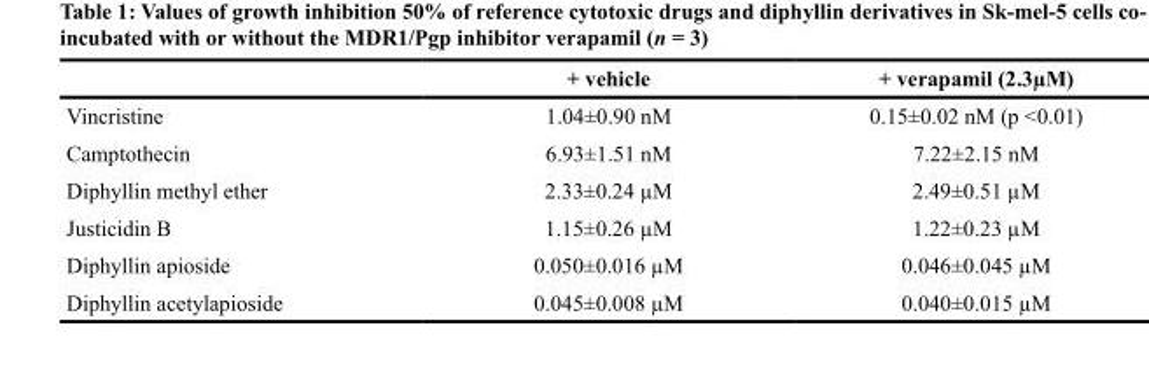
<table><thead><tr><td></td><td>+ vehicle</td><td>+ verapamil (2.3µM)</td></tr></thead><tbody><tr><td>Vincristine</td><td>1.04±0.90 nM</td><td>0.15±0.02 nM (p &lt;0.01)</td></tr><tr><td>Camptothecin</td><td>6.93±1.51 nM</td><td>7.22±2.15 nM</td></tr><tr><td>Diphyllin methyl ether</td><td>2.33±0.24 µM</td><td>2.49±0.51 µM</td></tr><tr><td>Justicidin B</td><td>1.15±0.26 µM</td><td>1.22±0.23 µM</td></tr><tr><td>Diphyllin apioside</td><td>0.050±0.016 µM</td><td>0.046±0.045 µM</td></tr><tr><td>Diphyllin acetylapioside</td><td>0.045±0.008 µM</td><td>0.040±0.015 µM</td></tr></tbody></table>